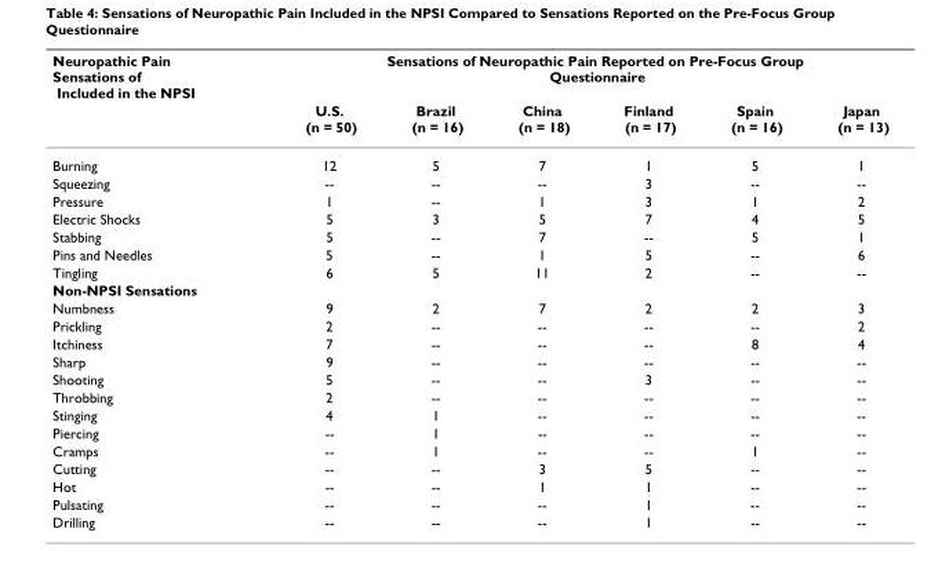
<table><thead><tr><td rowspan="2">Neuropathic Pain Sensations of Included in the NPSI</td><td colspan="6">Sensations of Neuropathic Pain Reported on Pre-Focus Group Questionnaire</td></tr><tr><td>U.S. (n = 50)</td><td>Brazil (n = 16)</td><td>China (n = 18)</td><td>Finland (n = 17)</td><td>Spain (n = 16)</td><td>Japan (n = 13)</td></tr></thead><tbody><tr><td>Burning</td><td>12</td><td>5</td><td>7</td><td>1</td><td>5</td><td>1</td></tr><tr><td>Squeezing</td><td>--</td><td>--</td><td>--</td><td>3</td><td>--</td><td>--</td></tr><tr><td>Pressure</td><td>1</td><td>--</td><td>1</td><td>3</td><td>1</td><td>2</td></tr><tr><td>Electric Shocks</td><td>5</td><td>3</td><td>5</td><td>7</td><td>4</td><td>5</td></tr><tr><td>Stabbing</td><td>5</td><td>--</td><td>7</td><td>--</td><td>5</td><td>1</td></tr><tr><td>Pins and Needles</td><td>5</td><td>--</td><td>1</td><td>5</td><td>--</td><td>6</td></tr><tr><td>Tingling</td><td>6</td><td>5</td><td>11</td><td>2</td><td>--</td><td>--</td></tr><tr><td colspan="7">Non-NPSI Sensations</td></tr><tr><td>Numbness</td><td>9</td><td>2</td><td>7</td><td>2</td><td>2</td><td>3</td></tr><tr><td>Prickling</td><td>2</td><td>--</td><td>--</td><td>--</td><td>--</td><td>2</td></tr><tr><td>Itchiness</td><td>7</td><td>--</td><td>--</td><td>--</td><td>8</td><td>4</td></tr><tr><td>Sharp</td><td>9</td><td>--</td><td>--</td><td>--</td><td>--</td><td>--</td></tr><tr><td>Shooting</td><td>5</td><td>--</td><td>--</td><td>3</td><td>--</td><td>--</td></tr><tr><td>Throbbing</td><td>2</td><td>--</td><td>--</td><td>--</td><td>--</td><td>--</td></tr><tr><td>Stinging</td><td>4</td><td>1</td><td>--</td><td>--</td><td>--</td><td>--</td></tr><tr><td>Piercing</td><td>--</td><td>1</td><td>--</td><td>--</td><td>--</td><td>--</td></tr><tr><td>Cramps</td><td>--</td><td>1</td><td>--</td><td>--</td><td>1</td><td>--</td></tr><tr><td>Cutting</td><td>--</td><td>--</td><td>3</td><td>5</td><td>--</td><td>--</td></tr><tr><td>Hot</td><td>--</td><td>--</td><td>1</td><td>1</td><td>--</td><td>--</td></tr><tr><td>Pulsating</td><td>--</td><td>--</td><td>--</td><td>1</td><td>--</td><td>--</td></tr><tr><td>Drilling</td><td>--</td><td>--</td><td>--</td><td>1</td><td>--</td><td>--</td></tr></tbody></table>